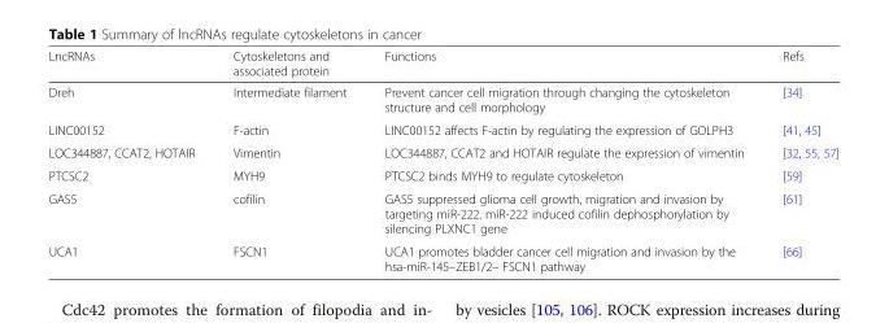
<table><thead><tr><td>LncRNAs</td><td>Cytoskeletons and associated protein</td><td>Functions</td><td>Refs</td></tr></thead><tbody><tr><td>Dreh</td><td>Intermediate filament</td><td>Prevent cancer cell migration through changing the cytoskeleton structure and cell morphology</td><td>[34]</td></tr><tr><td>LINC00152</td><td>F-actin</td><td>LINC00152 affects F-actin by regulating the expression of GOLPH3</td><td>[41, 45]</td></tr><tr><td>LOC344887, CCAT2, HOTAIR</td><td>Vimentin</td><td>LOC344887, CCAT2 and HOTAIR regulate the expression of vimentin</td><td>[32, 55, 57]</td></tr><tr><td>PTCSC2</td><td>MYH9</td><td>PTCSC2 binds MYH9 to regulate cytoskeleton</td><td>[59]</td></tr><tr><td>GAS5</td><td>cofilin</td><td>GAS5 suppressed glioma cell growth, migration and invasion by targeting miR-222. miR-222 induced cofilin dephosphorylation by silencing PLXNC1 gene</td><td>[61]</td></tr><tr><td>UCA1</td><td>FSCN1</td><td>UCA1 promotes bladder cancer cell migration and invasion by the hsa-miR-145–ZEB1/2– FSCN1 pathway</td><td>[66]</td></tr></tbody></table>